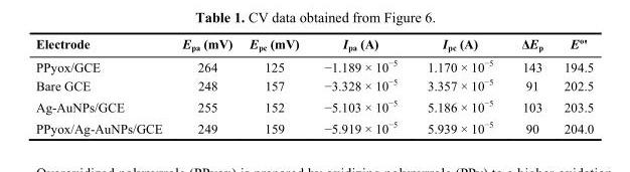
<table><thead><tr><td>Electrode</td><td>E<sub>pa</sub> (mV)</td><td>E<sub>pc</sub> (mV)</td><td>I<sub>pa</sub> (A)</td><td>I<sub>pc</sub> (A)</td><td>ΔE<sub>p</sub></td><td>E<sup>º</sup>&#x27;</td></tr></thead><tbody><tr><td>PPyox/GCE</td><td>264</td><td>125</td><td>−1.189 × 10<sup>−5</sup></td><td>1.170 × 10<sup>−5</sup></td><td>143</td><td>194.5</td></tr><tr><td>Bare GCE</td><td>248</td><td>157</td><td>−3.328 × 10<sup>−5</sup></td><td>3.357 × 10<sup>−5</sup></td><td>91</td><td>202.5</td></tr><tr><td>Ag-AuNPs/GCE</td><td>255</td><td>152</td><td>−5.103 × 10<sup>−5</sup></td><td>5.186 × 10<sup>−5</sup></td><td>103</td><td>203.5</td></tr><tr><td>PPyox/Ag-AuNPs/GCE</td><td>249</td><td>159</td><td>−5.919 × 10<sup>−5</sup></td><td>5.939 × 10<sup>−5</sup></td><td>90</td><td>204.0</td></tr></tbody></table>